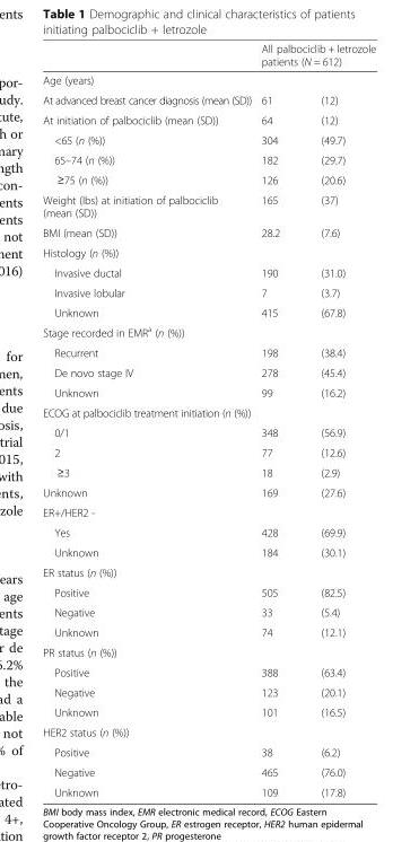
<table><thead><tr><td rowspan="2">Age (years)</td><td colspan="2">All palbociclib + letrozole patients (N = 612)</td></tr><tr><td></td><td></td></tr></thead><tbody><tr><td>At advanced breast cancer diagnosis (mean (SD))</td><td>61</td><td>(12)</td></tr><tr><td>At initiation of palbociclib (mean (SD))</td><td>64</td><td>(12)</td></tr><tr><td>&lt;65 (n (%))</td><td>304</td><td>(49.7)</td></tr><tr><td>65–74 (n (%))</td><td>182</td><td>(29.7)</td></tr><tr><td>≥75 (n (%))</td><td>126</td><td>(20.6)</td></tr><tr><td>Weight (lbs) at initiation of palbociclib (mean (SD))</td><td>165</td><td>(37)</td></tr><tr><td>BMI (mean (SD))</td><td>28.2</td><td>(7.6)</td></tr><tr><td colspan="3">Histology (n (%))</td></tr><tr><td>Invasive ductal</td><td>190</td><td>(31.0)</td></tr><tr><td>Invasive lobular</td><td>7</td><td>(3.7)</td></tr><tr><td>Unknown</td><td>415</td><td>(67.8)</td></tr><tr><td colspan="3">Stage recorded in EMR<sup>a</sup> (n (%))</td></tr><tr><td>Recurrent</td><td>198</td><td>(38.4)</td></tr><tr><td>De novo stage IV</td><td>278</td><td>(45.4)</td></tr><tr><td>Unknown</td><td>99</td><td>(16.2)</td></tr><tr><td colspan="3">ECOG at palbociclib treatment initiation (n (%))</td></tr><tr><td>0/1</td><td>348</td><td>(56.9)</td></tr><tr><td>2</td><td>77</td><td>(12.6)</td></tr><tr><td>≥3</td><td>18</td><td>(2.9)</td></tr><tr><td>Unknown</td><td>169</td><td>(27.6)</td></tr><tr><td colspan="3">ER+/HER2 -</td></tr><tr><td>Yes</td><td>428</td><td>(69.9)</td></tr><tr><td>Unknown</td><td>184</td><td>(30.1)</td></tr><tr><td colspan="3">ER status (n (%))</td></tr><tr><td>Positive</td><td>505</td><td>(82.5)</td></tr><tr><td>Negative</td><td>33</td><td>(5.4)</td></tr><tr><td>Unknown</td><td>74</td><td>(12.1)</td></tr><tr><td colspan="3">PR status (n (%))</td></tr><tr><td>Positive</td><td>388</td><td>(63.4)</td></tr><tr><td>Negative</td><td>123</td><td>(20.1)</td></tr><tr><td>Unknown</td><td>101</td><td>(16.5)</td></tr><tr><td colspan="3">HER2 status (n (%))</td></tr><tr><td>Positive</td><td>38</td><td>(6.2)</td></tr><tr><td>Negative</td><td>465</td><td>(76.0)</td></tr><tr><td>Unknown</td><td>109</td><td>(17.8)</td></tr></tbody></table>